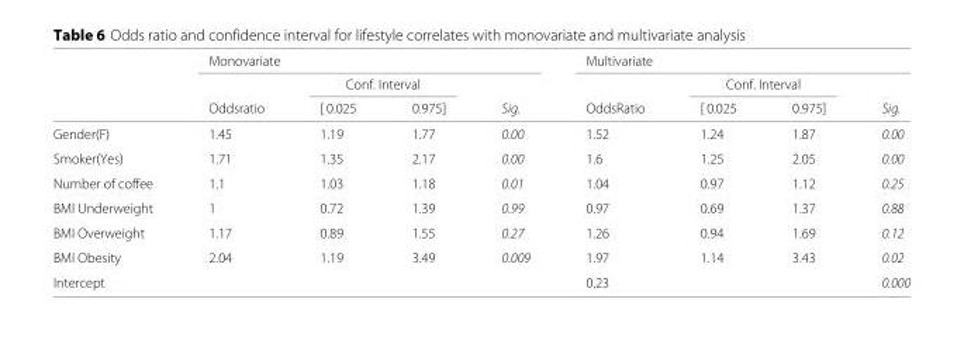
<table><thead><tr><td rowspan="3"></td><td colspan="4">Monovariate</td><td colspan="4">Multivariate</td></tr><tr><td rowspan="2">Oddsratio</td><td colspan="2">Conf. Interval</td><td rowspan="2">Sig.</td><td rowspan="2">OddsRatio</td><td colspan="2">Conf. Interval</td><td rowspan="2">Sig.</td></tr><tr><td>[ 0.025</td><td>0.975]</td><td>[ 0.025</td><td>0.975]</td></tr></thead><tbody><tr><td>Gender(F)</td><td>1.45</td><td>1.19</td><td>1.77</td><td>0.00</td><td>1.52</td><td>1.24</td><td>1.87</td><td>0.00</td></tr><tr><td>Smoker(Yes)</td><td>1.71</td><td>1.35</td><td>2.17</td><td>0.00</td><td>1.6</td><td>1.25</td><td>2.05</td><td>0.00</td></tr><tr><td>Number of coffee</td><td>1.1</td><td>1.03</td><td>1.18</td><td>0.01</td><td>1.04</td><td>0.97</td><td>1.12</td><td>0.25</td></tr><tr><td>BMI Underweight</td><td>1</td><td>0.72</td><td>1.39</td><td>0.99</td><td>0.97</td><td>0.69</td><td>1.37</td><td>0.88</td></tr><tr><td>BMI Overweight</td><td>1.17</td><td>0.89</td><td>1.55</td><td>0.27</td><td>1.26</td><td>0.94</td><td>1.69</td><td>0.12</td></tr><tr><td>BMI Obesity</td><td>2.04</td><td>1.19</td><td>3.49</td><td>0.009</td><td>1.97</td><td>1.14</td><td>3.43</td><td>0.02</td></tr><tr><td>Intercept</td><td></td><td></td><td></td><td></td><td>0.23</td><td></td><td></td><td>0.000</td></tr></tbody></table>